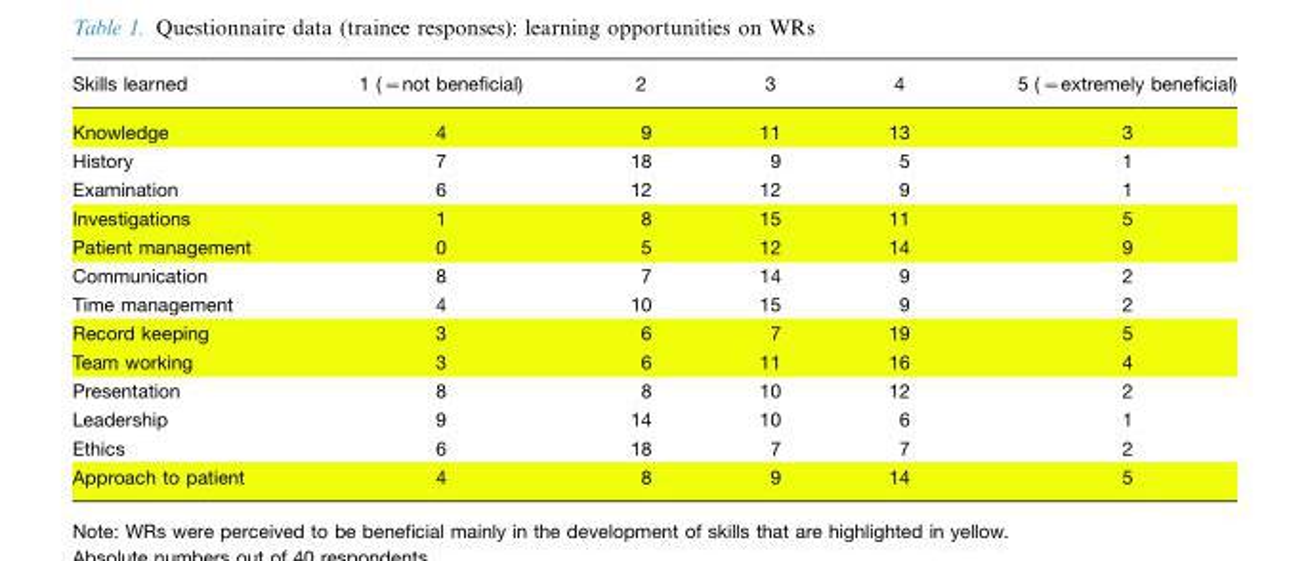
<table><thead><tr><td>Skills learned</td><td>1 (=not beneficial)</td><td>2</td><td>3</td><td>4</td><td>5 (=extremely beneficial)</td></tr></thead><tbody><tr><td>Knowledge</td><td>4</td><td>9</td><td>11</td><td>13</td><td>3</td></tr><tr><td>History</td><td>7</td><td>18</td><td>9</td><td>5</td><td>1</td></tr><tr><td>Examination</td><td>6</td><td>12</td><td>12</td><td>9</td><td>1</td></tr><tr><td>Investigations</td><td>1</td><td>8</td><td>15</td><td>11</td><td>5</td></tr><tr><td>Patient management</td><td>0</td><td>5</td><td>12</td><td>14</td><td>9</td></tr><tr><td>Communication</td><td>8</td><td>7</td><td>14</td><td>9</td><td>2</td></tr><tr><td>Time management</td><td>4</td><td>10</td><td>15</td><td>9</td><td>2</td></tr><tr><td>Record keeping</td><td>3</td><td>6</td><td>7</td><td>19</td><td>5</td></tr><tr><td>Team working</td><td>3</td><td>6</td><td>11</td><td>16</td><td>4</td></tr><tr><td>Presentation</td><td>8</td><td>8</td><td>10</td><td>12</td><td>2</td></tr><tr><td>Leadership</td><td>9</td><td>14</td><td>10</td><td>6</td><td>1</td></tr><tr><td>Ethics</td><td>6</td><td>18</td><td>7</td><td>7</td><td>2</td></tr><tr><td>Approach to patient</td><td>4</td><td>8</td><td>9</td><td>14</td><td>5</td></tr></tbody></table>